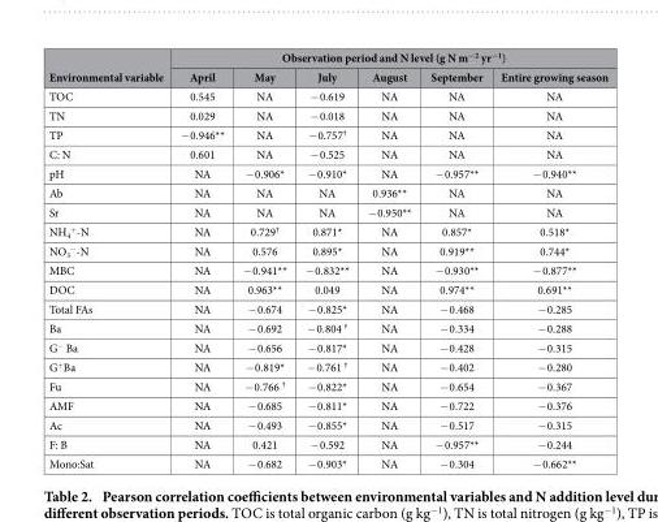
<table><thead><tr><td rowspan="2">Environmental variable</td><td colspan="6">Observation period and N level (g N m<sup>−2</sup> yr<sup>−1</sup>)</td></tr><tr><td>April</td><td>May</td><td>July</td><td>August</td><td>September</td><td>Entire growing season</td></tr></thead><tbody><tr><td>TOC</td><td>0.545</td><td>NA</td><td>− 0.619</td><td>NA</td><td>NA</td><td>NA</td></tr><tr><td>TN</td><td>0.029</td><td>NA</td><td>− 0.018</td><td>NA</td><td>NA</td><td>NA</td></tr><tr><td>TP</td><td>− 0.946**</td><td>NA</td><td>− 0.757<sup>†</sup></td><td>NA</td><td>NA</td><td>NA</td></tr><tr><td>C: N</td><td>0.601</td><td>NA</td><td>− 0.525</td><td>NA</td><td>NA</td><td>NA</td></tr><tr><td>pH</td><td>NA</td><td>− 0.906*</td><td>− 0.910*</td><td>NA</td><td>− 0.957**</td><td>− 0.940**</td></tr><tr><td>Ab</td><td>NA</td><td>NA</td><td>NA</td><td>0.936**</td><td>NA</td><td>NA</td></tr><tr><td>Sr</td><td>NA</td><td>NA</td><td>NA</td><td>− 0.950**</td><td>NA</td><td>NA</td></tr><tr><td>NH<sub>4</sub> <sup>+</sup>-N</td><td>NA</td><td>0.729<sup>†</sup></td><td>0.871*</td><td>NA</td><td>0.857*</td><td>0.518*</td></tr><tr><td>NO<sub>3</sub> <sup>−</sup>-N</td><td>NA</td><td>0.576</td><td>0.895*</td><td>NA</td><td>0.919**</td><td>0.744*</td></tr><tr><td>MBC</td><td>NA</td><td>− 0.941**</td><td>− 0.832**</td><td>NA</td><td>− 0.930**</td><td>− 0.877**</td></tr><tr><td>DOC</td><td>NA</td><td>0.963**</td><td>0.049</td><td>NA</td><td>0.974**</td><td>0.691**</td></tr><tr><td>Total FAs</td><td>NA</td><td>− 0.674</td><td>− 0.825*</td><td>NA</td><td>− 0.468</td><td>− 0.285</td></tr><tr><td>Ba</td><td>NA</td><td>− 0.692</td><td>− 0.804 <sup>†</sup></td><td>NA</td><td>− 0.334</td><td>− 0.288</td></tr><tr><td>G<sup>−</sup> Ba</td><td>NA</td><td>− 0.656</td><td>− 0.817*</td><td>NA</td><td>− 0.428</td><td>− 0.315</td></tr><tr><td>G<sup>+</sup>Ba</td><td>NA</td><td>− 0.819*</td><td>− 0.761 <sup>†</sup></td><td>NA</td><td>− 0.402</td><td>− 0.280</td></tr><tr><td>Fu</td><td>NA</td><td>− 0.766 <sup>†</sup></td><td>− 0.822*</td><td>NA</td><td>− 0.654</td><td>− 0.367</td></tr><tr><td>AMF</td><td>NA</td><td>− 0.685</td><td>− 0.811*</td><td>NA</td><td>− 0.722</td><td>− 0.376</td></tr><tr><td>Ac</td><td>NA</td><td>− 0.493</td><td>− 0.855*</td><td>NA</td><td>− 0.517</td><td>− 0.315</td></tr><tr><td>F: B</td><td>NA</td><td>0.421</td><td>− 0.592</td><td>NA</td><td>− 0.957**</td><td>− 0.244</td></tr><tr><td>Mono:Sat</td><td>NA</td><td>− 0.682</td><td>− 0.903*</td><td>NA</td><td>− 0.304</td><td>− 0.662**</td></tr></tbody></table>